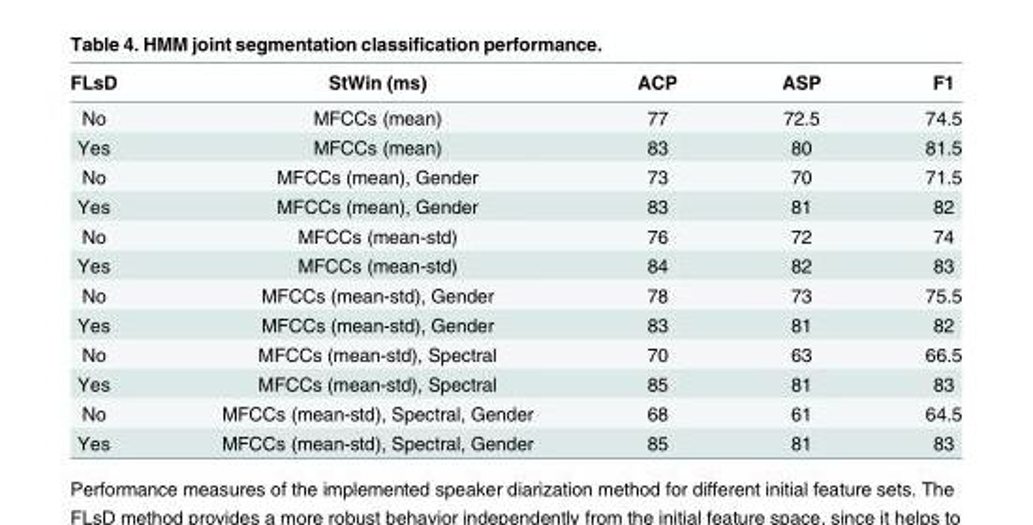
<table><thead><tr><td>FLsD</td><td>StWin (ms)</td><td>ACP</td><td>ASP</td><td>F1</td></tr></thead><tbody><tr><td>No</td><td>MFCCs (mean)</td><td>77</td><td>72.5</td><td>74.5</td></tr><tr><td>Yes</td><td>MFCCs (mean)</td><td>83</td><td>80</td><td>81.5</td></tr><tr><td>No</td><td>MFCCs (mean), Gender</td><td>73</td><td>70</td><td>71.5</td></tr><tr><td>Yes</td><td>MFCCs (mean), Gender</td><td>83</td><td>81</td><td>82</td></tr><tr><td>No</td><td>MFCCs (mean-std)</td><td>76</td><td>72</td><td>74</td></tr><tr><td>Yes</td><td>MFCCs (mean-std)</td><td>84</td><td>82</td><td>83</td></tr><tr><td>No</td><td>MFCCs (mean-std), Gender</td><td>78</td><td>73</td><td>75.5</td></tr><tr><td>Yes</td><td>MFCCs (mean-std), Gender</td><td>83</td><td>81</td><td>82</td></tr><tr><td>No</td><td>MFCCs (mean-std), Spectral</td><td>70</td><td>63</td><td>66.5</td></tr><tr><td>Yes</td><td>MFCCs (mean-std), Spectral</td><td>85</td><td>81</td><td>83</td></tr><tr><td>No</td><td>MFCCs (mean-std), Spectral, Gender</td><td>68</td><td>61</td><td>64.5</td></tr><tr><td>Yes</td><td>MFCCs (mean-std), Spectral, Gender</td><td>85</td><td>81</td><td>83</td></tr></tbody></table>